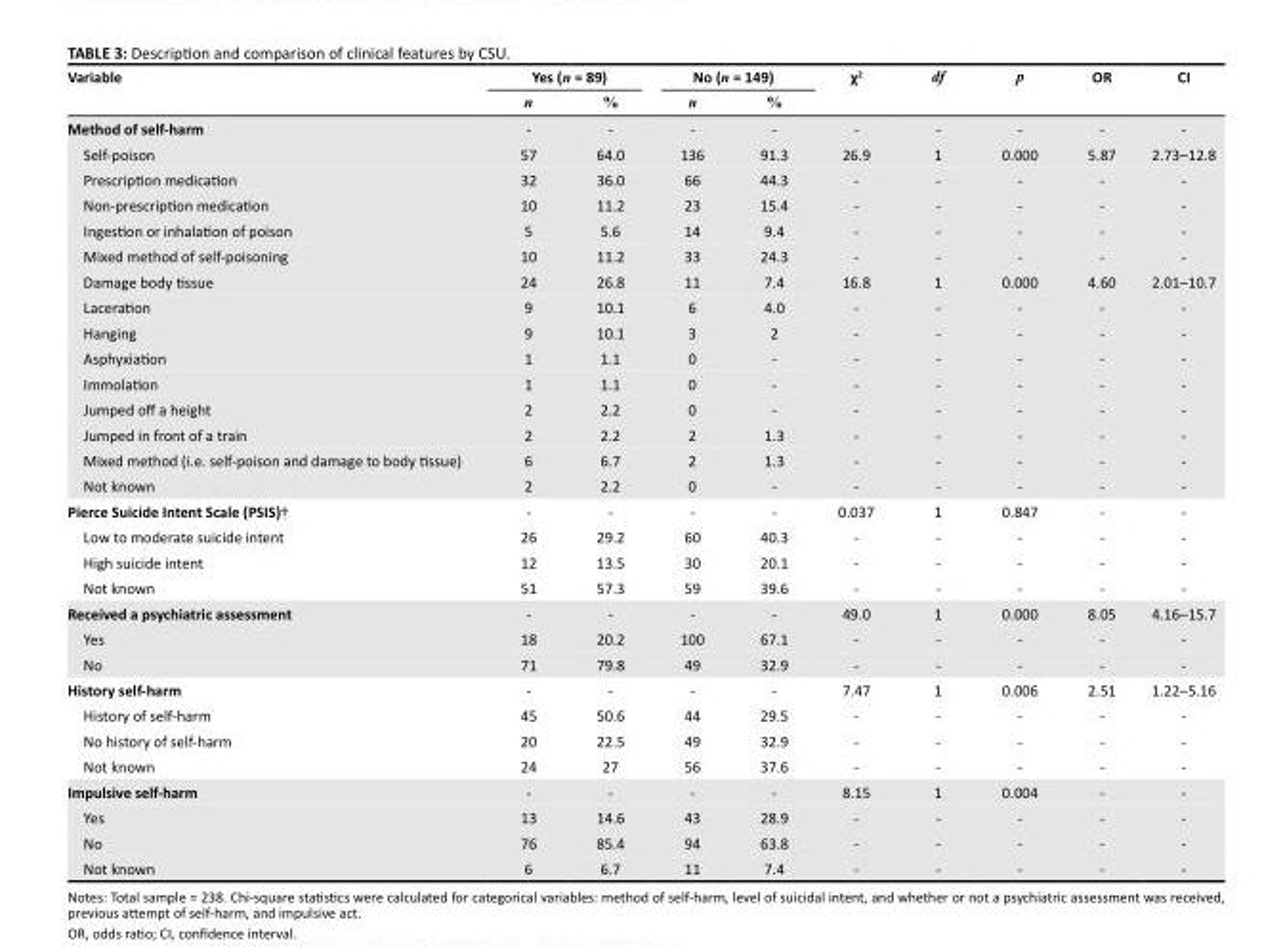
<table><thead><tr><td rowspan="2">Variable</td><td colspan="2">Yes (n = 89)</td><td colspan="2">No (n = 149)</td><td rowspan="2">χ<sup>2</sup></td><td rowspan="2">df</td><td rowspan="2">p</td><td rowspan="2">OR</td><td rowspan="2">CI</td></tr><tr><td>n</td><td>%</td><td>n</td><td>%</td></tr></thead><tbody><tr><td>Method of self-harm</td><td>-</td><td>-</td><td>-</td><td>-</td><td>-</td><td>-</td><td>-</td><td>-</td><td>-</td></tr><tr><td>Self-poison</td><td>57</td><td>64.0</td><td>136</td><td>91.3</td><td>26.9</td><td>1</td><td>0.000</td><td>5.87</td><td>2.73–12.8</td></tr><tr><td>Prescription medication</td><td>32</td><td>36.0</td><td>66</td><td>44.3</td><td>-</td><td>-</td><td>-</td><td>-</td><td>-</td></tr><tr><td>Non-prescription medication</td><td>10</td><td>11.2</td><td>23</td><td>15.4</td><td>-</td><td>-</td><td>-</td><td>-</td><td>-</td></tr><tr><td>Ingestion or inhalation of poison</td><td>5</td><td>5.6</td><td>14</td><td>9.4</td><td>-</td><td>-</td><td>-</td><td>-</td><td>-</td></tr><tr><td>Mixed method of self-poisoning</td><td>10</td><td>11.2</td><td>33</td><td>24.3</td><td>-</td><td>-</td><td>-</td><td>-</td><td>-</td></tr><tr><td>Damage body tissue</td><td>24</td><td>26.8</td><td>11</td><td>7.4</td><td>16.8</td><td>1</td><td>0.000</td><td>4.60</td><td>2.01–10.7</td></tr><tr><td>Laceration</td><td>9</td><td>10.1</td><td>6</td><td>4.0</td><td>-</td><td>-</td><td>-</td><td>-</td><td>-</td></tr><tr><td>Hanging</td><td>9</td><td>10.1</td><td>3</td><td>2</td><td>-</td><td>-</td><td>-</td><td>-</td><td>-</td></tr><tr><td>Asphyxiation</td><td>1</td><td>1.1</td><td>0</td><td>-</td><td>-</td><td>-</td><td>-</td><td>-</td><td>-</td></tr><tr><td>Immolation</td><td>1</td><td>1.1</td><td>0</td><td>-</td><td>-</td><td>-</td><td>-</td><td>-</td><td>-</td></tr><tr><td>Jumped off a height</td><td>2</td><td>2.2</td><td>0</td><td>-</td><td>-</td><td>-</td><td>-</td><td>-</td><td>-</td></tr><tr><td>Jumped in front of a train</td><td>2</td><td>2.2</td><td>2</td><td>1.3</td><td>-</td><td>-</td><td>-</td><td>-</td><td>-</td></tr><tr><td>Mixed method (i.e. self-poison and damage to body tissue)</td><td>6</td><td>6.7</td><td>2</td><td>1.3</td><td>-</td><td>-</td><td>-</td><td>-</td><td>-</td></tr><tr><td>Not known</td><td>2</td><td>2.2</td><td>0</td><td>-</td><td>-</td><td>-</td><td>-</td><td>-</td><td>-</td></tr><tr><td>Pierce Suicide Intent Scale (PSIS)†</td><td>-</td><td>-</td><td>-</td><td>-</td><td>0.037</td><td>1</td><td>0.847</td><td>-</td><td>-</td></tr><tr><td>Low to moderate suicide intent</td><td>26</td><td>29.2</td><td>60</td><td>40.3</td><td>-</td><td>-</td><td>-</td><td>-</td><td>-</td></tr><tr><td>High suicide intent</td><td>12</td><td>13.5</td><td>30</td><td>20.1</td><td>-</td><td>-</td><td>-</td><td>-</td><td>-</td></tr><tr><td>Not known</td><td>51</td><td>57.3</td><td>59</td><td>39.6</td><td>-</td><td>-</td><td>-</td><td>-</td><td>-</td></tr><tr><td>Received a psychiatric assessment</td><td>-</td><td>-</td><td>-</td><td>-</td><td>49.0</td><td>1</td><td>0.000</td><td>8.05</td><td>4.16–15.7</td></tr><tr><td>Yes</td><td>18</td><td>20.2</td><td>100</td><td>67.1</td><td>-</td><td>-</td><td>-</td><td>-</td><td>-</td></tr><tr><td>No</td><td>71</td><td>79.8</td><td>49</td><td>32.9</td><td>-</td><td>-</td><td>-</td><td>-</td><td>-</td></tr><tr><td>History self-harm</td><td>-</td><td>-</td><td>-</td><td>-</td><td>7.47</td><td>1</td><td>0.006</td><td>2.51</td><td>1.22–5.16</td></tr><tr><td>History of self-harm</td><td>45</td><td>50.6</td><td>44</td><td>29.5</td><td>-</td><td>-</td><td>-</td><td>-</td><td>-</td></tr><tr><td>No history of self-harm</td><td>20</td><td>22.5</td><td>49</td><td>32.9</td><td>-</td><td>-</td><td>-</td><td>-</td><td>-</td></tr><tr><td>Not known</td><td>24</td><td>27</td><td>56</td><td>37.6</td><td>-</td><td>-</td><td>-</td><td>-</td><td>-</td></tr><tr><td>Impulsive self-harm</td><td>-</td><td>-</td><td>-</td><td>-</td><td>8.15</td><td>1</td><td>0.004</td><td>-</td><td>-</td></tr><tr><td>Yes</td><td>13</td><td>14.6</td><td>43</td><td>28.9</td><td>-</td><td>-</td><td>-</td><td>-</td><td>-</td></tr><tr><td>No</td><td>76</td><td>85.4</td><td>94</td><td>63.8</td><td>-</td><td>-</td><td>-</td><td>-</td><td>-</td></tr><tr><td>Not known</td><td>6</td><td>6.7</td><td>11</td><td>7.4</td><td>-</td><td>-</td><td>-</td><td>-</td><td>-</td></tr></tbody></table>